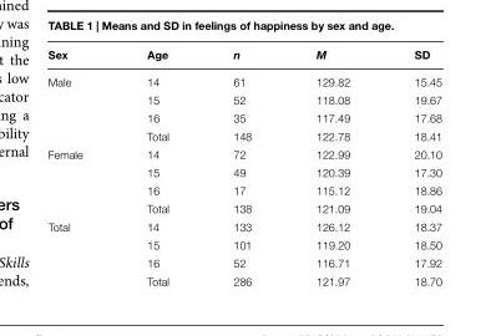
<table><thead><tr><td>Sex</td><td>Age</td><td>n</td><td>M</td><td>SD</td></tr></thead><tbody><tr><td rowspan="4">Male</td><td>14</td><td>61</td><td>129.82</td><td>15.45</td></tr><tr><td>15</td><td>52</td><td>118.08</td><td>19.67</td></tr><tr><td>16</td><td>35</td><td>117.49</td><td>17.68</td></tr><tr><td>Total</td><td>148</td><td>122.78</td><td>18.41</td></tr><tr><td rowspan="4">Female</td><td>14</td><td>72</td><td>122.99</td><td>20.10</td></tr><tr><td>15</td><td>49</td><td>120.39</td><td>17.30</td></tr><tr><td>16</td><td>17</td><td>115.12</td><td>18.86</td></tr><tr><td>Total</td><td>138</td><td>121.09</td><td>19.04</td></tr><tr><td rowspan="4">Total</td><td>14</td><td>133</td><td>126.12</td><td>18.37</td></tr><tr><td>15</td><td>101</td><td>119.20</td><td>18.50</td></tr><tr><td>16</td><td>52</td><td>116.71</td><td>17.92</td></tr><tr><td>Total</td><td>286</td><td>121.97</td><td>18.70</td></tr></tbody></table>